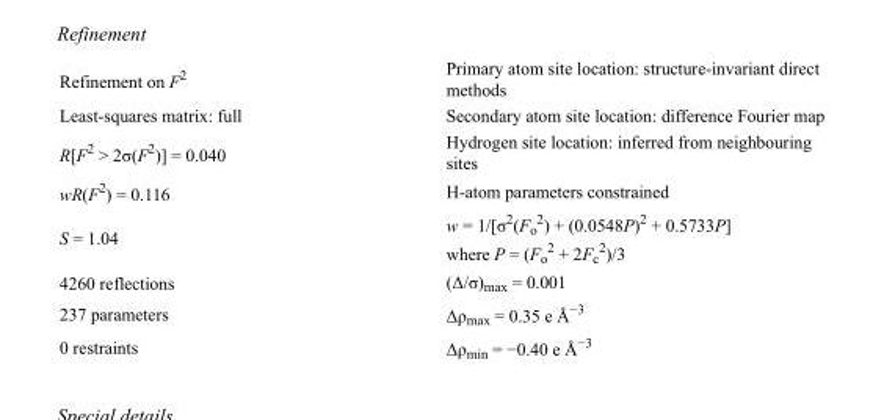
<table><tbody><tr><td>Refinement on F<sup>2</sup></td><td>Primary atom site location: structure-invariant direct methods</td></tr><tr><td>Least-squares matrix: full</td><td>Secondary atom site location: difference Fourier map</td></tr><tr><td>R[F<sup>2</sup> &gt; 2σ(F<sup>2</sup>)] = 0.040</td><td>Hydrogen site location: inferred from neighbouring sites</td></tr><tr><td>wR(F<sup>2</sup>) = 0.116</td><td>H-atom parameters constrained</td></tr><tr><td>S = 1.04</td><td>w = 1/[σ<sup>2</sup>(F<sub>o</sub> <sup>2</sup>) + (0.0548P)<sup>2</sup> + 0.5733P] where P = (F<sub>o</sub> <sup>2</sup> + 2F<sub>c</sub> <sup>2</sup>)/3</td></tr><tr><td>4260 reflections</td><td>(Δ/σ)<sub>max</sub> = 0.001</td></tr><tr><td>237 parameters</td><td>Δρ<sub>max</sub> = 0.35 e Å<sup>−3</sup></td></tr><tr><td>0 restraints</td><td>Δρ<sub>min</sub> = −0.40 e Å<sup>−3</sup></td></tr></tbody></table>